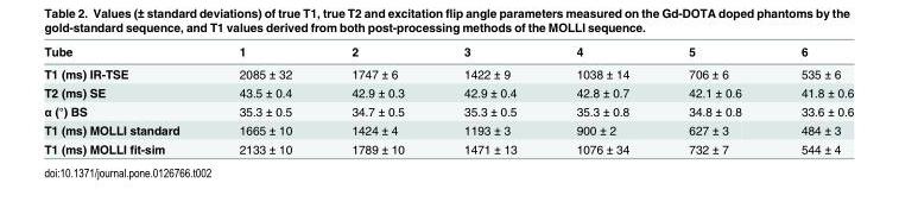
<table><thead><tr><td>Tube</td><td>1</td><td>2</td><td>3</td><td>4</td><td>5</td><td>6</td></tr></thead><tbody><tr><td>T1 (ms) IR-TSE</td><td>2085 ± 32</td><td>1747 ± 6</td><td>1422 ± 9</td><td>1038 ± 14</td><td>706 ± 6</td><td>535 ± 6</td></tr><tr><td>T2 (ms) SE</td><td>43.5 ± 0.4</td><td>42.9 ± 0.3</td><td>42.9 ± 0.4</td><td>42.8 ± 0.7</td><td>42.1 ± 0.6</td><td>41.8 ± 0.6</td></tr><tr><td>α (°) BS</td><td>35.3 ± 0.5</td><td>34.7 ± 0.5</td><td>35.3 ± 0.5</td><td>35.3 ± 0.8</td><td>34.8 ± 0.8</td><td>33.6 ± 0.6</td></tr><tr><td>T1 (ms) MOLLI standard</td><td>1665 ± 10</td><td>1424 ± 4</td><td>1193 ± 3</td><td>900 ± 2</td><td>627 ± 3</td><td>484 ± 3</td></tr><tr><td>T1 (ms) MOLLI fit-sim</td><td>2133 ± 10</td><td>1789 ± 10</td><td>1471 ± 13</td><td>1076 ± 34</td><td>732 ± 7</td><td>544 ± 4</td></tr></tbody></table>